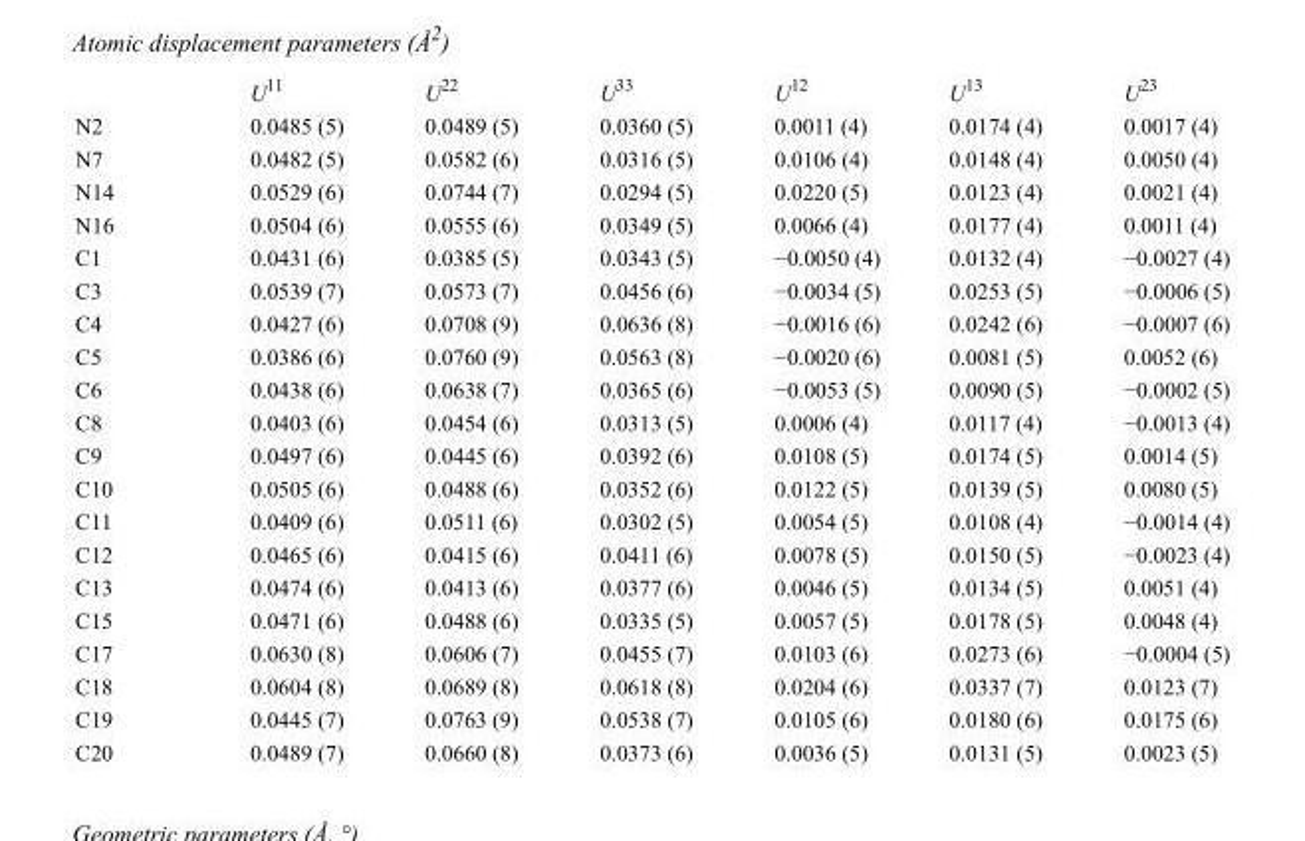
<table><thead><tr><td></td><td>U<sup>11</sup></td><td>U<sup>22</sup></td><td>U<sup>33</sup></td><td>U<sup>12</sup></td><td>U<sup>13</sup></td><td>U<sup>23</sup></td></tr></thead><tbody><tr><td>N2</td><td>0.0485 (5)</td><td>0.0489 (5)</td><td>0.0360 (5)</td><td>0.0011 (4)</td><td>0.0174 (4)</td><td>0.0017 (4)</td></tr><tr><td>N7</td><td>0.0482 (5)</td><td>0.0582 (6)</td><td>0.0316 (5)</td><td>0.0106 (4)</td><td>0.0148 (4)</td><td>0.0050 (4)</td></tr><tr><td>N14</td><td>0.0529 (6)</td><td>0.0744 (7)</td><td>0.0294 (5)</td><td>0.0220 (5)</td><td>0.0123 (4)</td><td>0.0021 (4)</td></tr><tr><td>N16</td><td>0.0504 (6)</td><td>0.0555 (6)</td><td>0.0349 (5)</td><td>0.0066 (4)</td><td>0.0177 (4)</td><td>0.0011 (4)</td></tr><tr><td>C1</td><td>0.0431 (6)</td><td>0.0385 (5)</td><td>0.0343 (5)</td><td>−0.0050 (4)</td><td>0.0132 (4)</td><td>−0.0027 (4)</td></tr><tr><td>C3</td><td>0.0539 (7)</td><td>0.0573 (7)</td><td>0.0456 (6)</td><td>−0.0034 (5)</td><td>0.0253 (5)</td><td>−0.0006 (5)</td></tr><tr><td>C4</td><td>0.0427 (6)</td><td>0.0708 (9)</td><td>0.0636 (8)</td><td>−0.0016 (6)</td><td>0.0242 (6)</td><td>−0.0007 (6)</td></tr><tr><td>C5</td><td>0.0386 (6)</td><td>0.0760 (9)</td><td>0.0563 (8)</td><td>−0.0020 (6)</td><td>0.0081 (5)</td><td>0.0052 (6)</td></tr><tr><td>C6</td><td>0.0438 (6)</td><td>0.0638 (7)</td><td>0.0365 (6)</td><td>−0.0053 (5)</td><td>0.0090 (5)</td><td>−0.0002 (5)</td></tr><tr><td>C8</td><td>0.0403 (6)</td><td>0.0454 (6)</td><td>0.0313 (5)</td><td>0.0006 (4)</td><td>0.0117 (4)</td><td>−0.0013 (4)</td></tr><tr><td>C9</td><td>0.0497 (6)</td><td>0.0445 (6)</td><td>0.0392 (6)</td><td>0.0108 (5)</td><td>0.0174 (5)</td><td>0.0014 (5)</td></tr><tr><td>C10</td><td>0.0505 (6)</td><td>0.0488 (6)</td><td>0.0352 (6)</td><td>0.0122 (5)</td><td>0.0139 (5)</td><td>0.0080 (5)</td></tr><tr><td>C11</td><td>0.0409 (6)</td><td>0.0511 (6)</td><td>0.0302 (5)</td><td>0.0054 (5)</td><td>0.0108 (4)</td><td>−0.0014 (4)</td></tr><tr><td>C12</td><td>0.0465 (6)</td><td>0.0415 (6)</td><td>0.0411 (6)</td><td>0.0078 (5)</td><td>0.0150 (5)</td><td>−0.0023 (4)</td></tr><tr><td>C13</td><td>0.0474 (6)</td><td>0.0413 (6)</td><td>0.0377 (6)</td><td>0.0046 (5)</td><td>0.0134 (5)</td><td>0.0051 (4)</td></tr><tr><td>C15</td><td>0.0471 (6)</td><td>0.0488 (6)</td><td>0.0335 (5)</td><td>0.0057 (5)</td><td>0.0178 (5)</td><td>0.0048 (4)</td></tr><tr><td>C17</td><td>0.0630 (8)</td><td>0.0606 (7)</td><td>0.0455 (7)</td><td>0.0103 (6)</td><td>0.0273 (6)</td><td>−0.0004 (5)</td></tr><tr><td>C18</td><td>0.0604 (8)</td><td>0.0689 (8)</td><td>0.0618 (8)</td><td>0.0204 (6)</td><td>0.0337 (7)</td><td>0.0123 (7)</td></tr><tr><td>C19</td><td>0.0445 (7)</td><td>0.0763 (9)</td><td>0.0538 (7)</td><td>0.0105 (6)</td><td>0.0180 (6)</td><td>0.0175 (6)</td></tr><tr><td>C20</td><td>0.0489 (7)</td><td>0.0660 (8)</td><td>0.0373 (6)</td><td>0.0036 (5)</td><td>0.0131 (5)</td><td>0.0023 (5)</td></tr></tbody></table>